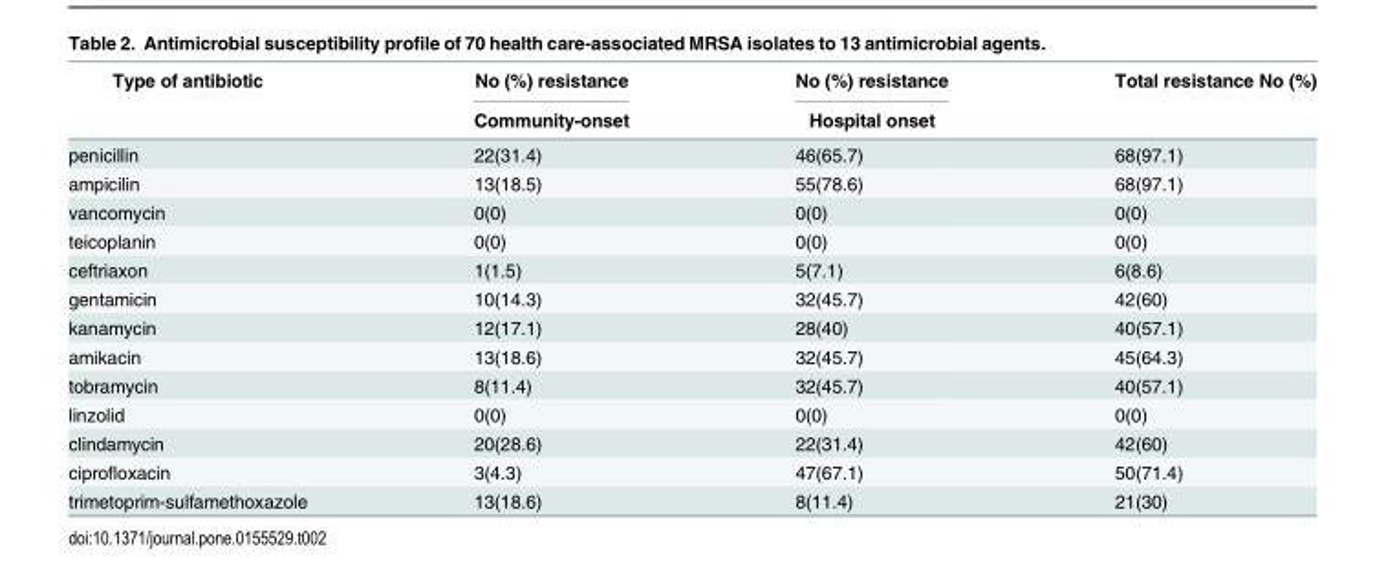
<table><thead><tr><td rowspan="2">Type of antibiotic</td><td rowspan="2">No (%) resistance Community-onset</td><td rowspan="2">No (%) resistance Hospital onset</td><td rowspan="2">Total resistance No (%)</td></tr><tr></tr></thead><tbody><tr><td>penicillin</td><td>22(31.4)</td><td>46(65.7)</td><td>68(97.1)</td></tr><tr><td>ampicilin</td><td>13(18.5)</td><td>55(78.6)</td><td>68(97.1)</td></tr><tr><td>vancomycin</td><td>0(0)</td><td>0(0)</td><td>0(0)</td></tr><tr><td>teicoplanin</td><td>0(0)</td><td>0(0)</td><td>0(0)</td></tr><tr><td>ceftriaxon</td><td>1(1.5)</td><td>5(7.1)</td><td>6(8.6)</td></tr><tr><td>gentamicin</td><td>10(14.3)</td><td>32(45.7)</td><td>42(60)</td></tr><tr><td>kanamycin</td><td>12(17.1)</td><td>28(40)</td><td>40(57.1)</td></tr><tr><td>amikacin</td><td>13(18.6)</td><td>32(45.7)</td><td>45(64.3)</td></tr><tr><td>tobramycin</td><td>8(11.4)</td><td>32(45.7)</td><td>40(57.1)</td></tr><tr><td>linzolid</td><td>0(0)</td><td>0(0)</td><td>0(0)</td></tr><tr><td>clindamycin</td><td>20(28.6)</td><td>22(31.4)</td><td>42(60)</td></tr><tr><td>ciprofloxacin</td><td>3(4.3)</td><td>47(67.1)</td><td>50(71.4)</td></tr><tr><td>trimetoprim-sulfamethoxazole</td><td>13(18.6)</td><td>8(11.4)</td><td>21(30)</td></tr></tbody></table>